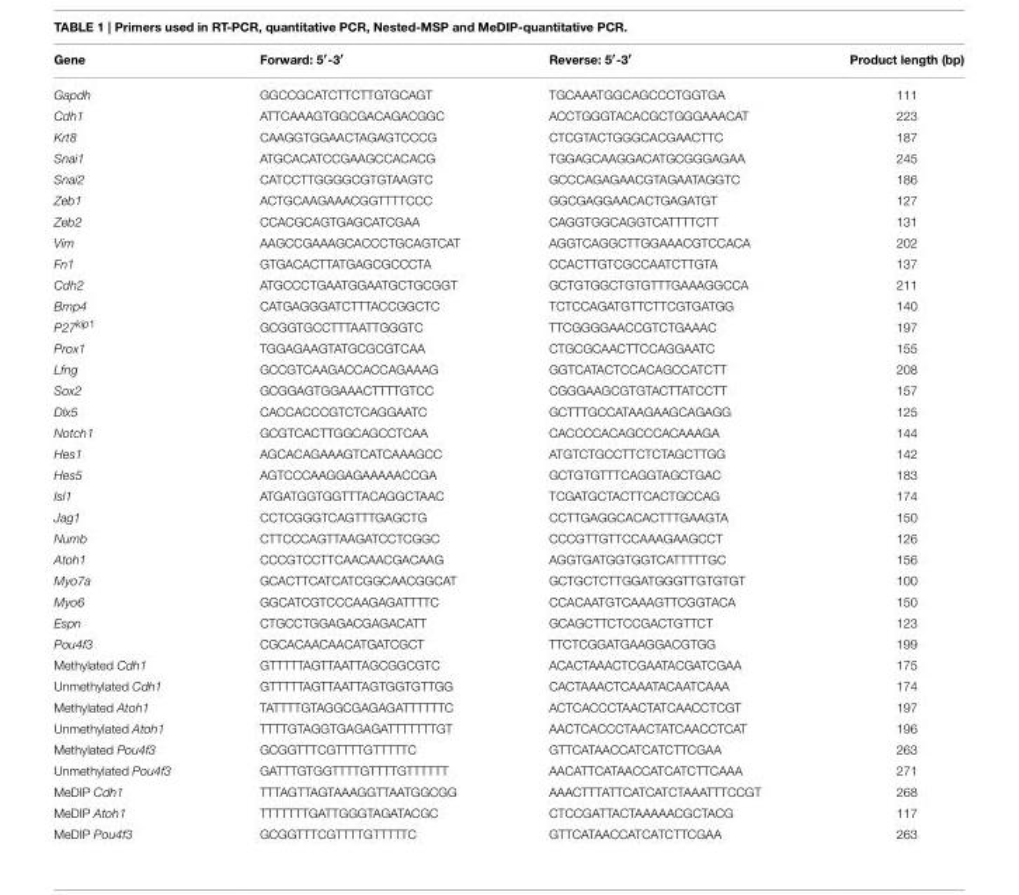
<table><thead><tr><td>Gene</td><td>Forward: 5′-3′</td><td>Reverse: 5′-3′</td><td>Product length (bp)</td></tr></thead><tbody><tr><td>Gapdh</td><td>GGCCGCATCTTCTTGTGCAGT</td><td>TGCAAATGGCAGCCCTGGTGA</td><td>111</td></tr><tr><td>Cdh1</td><td>ATTCAAAGTGGCGACAGACGGC</td><td>ACCTGGGTACACGCTGGGAAACAT</td><td>223</td></tr><tr><td>Krt8</td><td>CAAGGTGGAACTAGAGTCCCG</td><td>CTCGTACTGGGCACGAACTTC</td><td>187</td></tr><tr><td>Snai1</td><td>ATGCACATCCGAAGCCACACG</td><td>TGGAGCAAGGACATGCGGGAGAA</td><td>245</td></tr><tr><td>Snai2</td><td>CATCCTTGGGGCGTGTAAGTC</td><td>GCCCAGAGAACGTAGAATAGGTC</td><td>186</td></tr><tr><td>Zeb1</td><td>ACTGCAAGAAACGGTTTTCCC</td><td>GGCGAGGAACACTGAGATGT</td><td>127</td></tr><tr><td>Zeb2</td><td>CCACGCAGTGAGCATCGAA</td><td>CAGGTGGCAGGTCATTTTCTT</td><td>131</td></tr><tr><td>Vim</td><td>AAGCCGAAAGCACCCTGCAGTCAT</td><td>AGGTCAGGCTTGGAAACGTCCACA</td><td>202</td></tr><tr><td>Fn1</td><td>GTGACACTTATGAGCGCCCTA</td><td>CCACTTGTCGCCAATCTTGTA</td><td>137</td></tr><tr><td>Cdh2</td><td>ATGCCCTGAATGGAATGCTGCGGT</td><td>GCTGTGGCTGTGTTTGAAAGGCCA</td><td>211</td></tr><tr><td>Bmp4</td><td>CATGAGGGATCTTTACCGGCTC</td><td>TCTCCAGATGTTCTTCGTGATGG</td><td>140</td></tr><tr><td>P27kip1</td><td>GCGGTGCCTTTAATTGGGTC</td><td>TTCGGGGAACCGTCTGAAAC</td><td>197</td></tr><tr><td>Prox1</td><td>TGGAGAAGTATGCGCGTCAA</td><td>CTGCGCAACTTCCAGGAATC</td><td>155</td></tr><tr><td>Lfng</td><td>GCCGTCAAGACCACCAGAAAG</td><td>GGTCATACTCCACAGCCATCTT</td><td>208</td></tr><tr><td>Sox2</td><td>GCGGAGTGGAAACTTTTGTCC</td><td>CGGGAAGCGTGTACTTATCCTT</td><td>157</td></tr><tr><td>Dlx5</td><td>CACCACCCGTCTCAGGAATC</td><td>GCTTTGCCATAAGAAGCAGAGG</td><td>125</td></tr><tr><td>Notch1</td><td>GCGTCACTTGGCAGCCTCAA</td><td>CACCCCACAGCCCACAAAGA</td><td>144</td></tr><tr><td>Hes1</td><td>AGCACAGAAAGTCATCAAAGCC</td><td>ATGTCTGCCTTCTCTAGCTTGG</td><td>142</td></tr><tr><td>Hes5</td><td>AGTCCCAAGGAGAAAAACCGA</td><td>GCTGTGTTTCAGGTAGCTGAC</td><td>183</td></tr><tr><td>Isl1</td><td>ATGATGGTGGTTTACAGGCTAAC</td><td>TCGATGCTACTTCACTGCCAG</td><td>174</td></tr><tr><td>Jag1</td><td>CCTCGGGTCAGTTTGAGCTG</td><td>CCTTGAGGCACACTTTGAAGTA</td><td>150</td></tr><tr><td>Numb</td><td>CTTCCCAGTTAAGATCCTCGGC</td><td>CCCGTTGTTCCAAAGAAGCCT</td><td>126</td></tr><tr><td>Atoh1</td><td>CCCGTCCTTCAACAACGACAAG</td><td>AGGTGATGGTGGTCATTTTTGC</td><td>156</td></tr><tr><td>Myo7a</td><td>GCACTTCATCATCGGCAACGGCAT</td><td>GCTGCTCTTGGATGGGTTGTGTGT</td><td>100</td></tr><tr><td>Myo6</td><td>GGCATCGTCCCAAGAGATTTTC</td><td>CCACAATGTCAAAGTTCGGTACA</td><td>150</td></tr><tr><td>Espn</td><td>CTGCCTGGAGACGAGACATT</td><td>GCAGCTTCTCCGACTGTTCT</td><td>123</td></tr><tr><td>Pou4f3</td><td>CGCACAACAACATGATCGCT</td><td>TTCTCGGATGAAGGACGTGG</td><td>199</td></tr><tr><td>Methylated Cdh1</td><td>GTTTTTAGTTAATTAGCGGCGTC</td><td>ACACTAAACTCGAATACGATCGAA</td><td>175</td></tr><tr><td>Unmethylated Cdh1</td><td>GTTTTTAGTTAATTAGTGGTGTTGG</td><td>CACTAAACTCAAATACAATCAAA</td><td>174</td></tr><tr><td>Methylated Atoh1</td><td>TATTTTGTAGGCGAGAGATTTTTTC</td><td>ACTCACCCTAACTATCAACCTCGT</td><td>197</td></tr><tr><td>Unmethylated Atoh1</td><td>TTTTGTAGGTGAGAGATTTTTTTGT</td><td>AACTCACCCTAACTATCAACCTCAT</td><td>196</td></tr><tr><td>Methylated Pou4f3</td><td>GCGGTTTCGTTTTGTTTTTC</td><td>GTTCATAACCATCATCTTCGAA</td><td>263</td></tr><tr><td>Unmethylated Pou4f3</td><td>GATTTGTGGTTTTGTTTTGTTTTTT</td><td>AACATTCATAACCATCATCTTCAAA</td><td>271</td></tr><tr><td>MeDIP Cdh1</td><td>TTTAGTTAGTAAAGGTTAATGGCGG</td><td>AAACTTTATTCATCATCTAAATTTCCGT</td><td>268</td></tr><tr><td>MeDIP Atoh1</td><td>TTTTTTTGATTGGGTAGATACGC</td><td>CTCCGATTACTAAAAACGCTACG</td><td>117</td></tr><tr><td>MeDIP Pou4f3</td><td>GCGGTTTCGTTTTGTTTTTC</td><td>GTTCATAACCATCATCTTCGAA</td><td>263</td></tr></tbody></table>